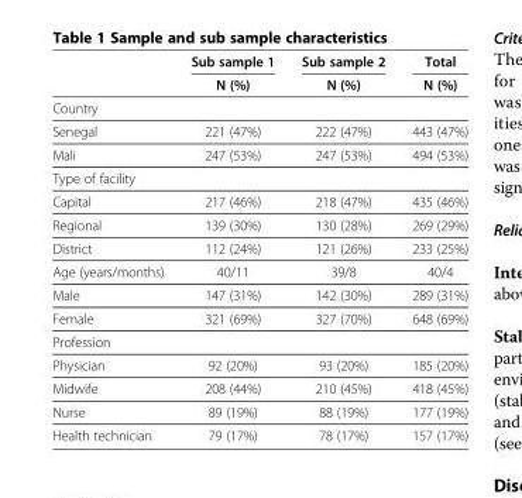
<table><thead><tr><td rowspan="2"></td><td rowspan="2">Sub sample 1 N (%)</td><td rowspan="2">Sub sample 2 N (%)</td><td rowspan="2">Total N (%)</td></tr><tr></tr></thead><tbody><tr><td colspan="4">Country</td></tr><tr><td>Senegal</td><td>221 (47%)</td><td>222 (47%)</td><td>443 (47%)</td></tr><tr><td>Mali</td><td>247 (53%)</td><td>247 (53%)</td><td>494 (53%)</td></tr><tr><td colspan="4">Type of facility</td></tr><tr><td>Capital</td><td>217 (46%)</td><td>218 (47%)</td><td>435 (46%)</td></tr><tr><td>Regional</td><td>139 (30%)</td><td>130 (28%)</td><td>269 (29%)</td></tr><tr><td>District</td><td>112 (24%)</td><td>121 (26%)</td><td>233 (25%)</td></tr><tr><td>Age (years/months)</td><td>40/11</td><td>39/8</td><td>40/4</td></tr><tr><td>Male</td><td>147 (31%)</td><td>142 (30%)</td><td>289 (31%)</td></tr><tr><td>Female</td><td>321 (69%)</td><td>327 (70%)</td><td>648 (69%)</td></tr><tr><td colspan="4">Profession</td></tr><tr><td>Physician</td><td>92 (20%)</td><td>93 (20%)</td><td>185 (20%)</td></tr><tr><td>Midwife</td><td>208 (44%)</td><td>210 (45%)</td><td>418 (45%)</td></tr><tr><td>Nurse</td><td>89 (19%)</td><td>88 (19%)</td><td>177 (19%)</td></tr><tr><td>Health technician</td><td>79 (17%)</td><td>78 (17%)</td><td>157 (17%)</td></tr></tbody></table>